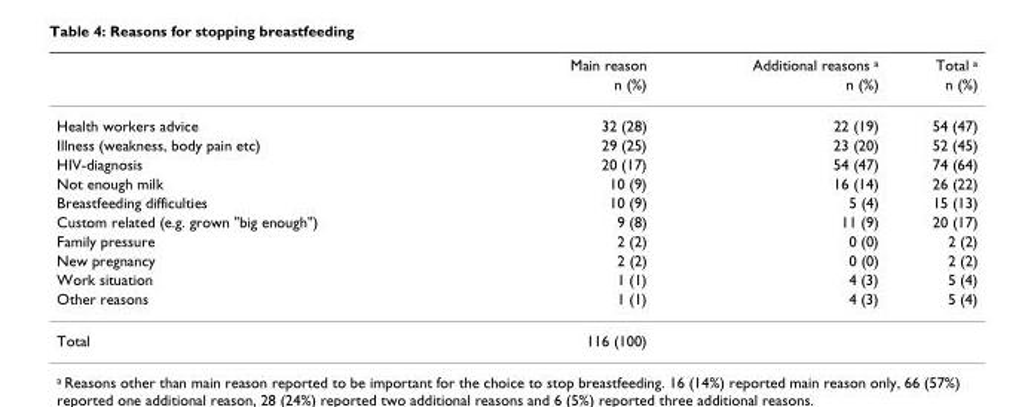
<table><thead><tr><td rowspan="2"></td><td rowspan="2">Main reason n (%)</td><td rowspan="2">Additional reasons <sup>a</sup> n (%)</td><td rowspan="2">Total <sup>a</sup> n (%)</td></tr><tr></tr></thead><tbody><tr><td>Health workers advice</td><td>32 (28)</td><td>22 (19)</td><td>54 (47)</td></tr><tr><td>Illness (weakness, body pain etc)</td><td>29 (25)</td><td>23 (20)</td><td>52 (45)</td></tr><tr><td>HIV-diagnosis</td><td>20 (17)</td><td>54 (47)</td><td>74 (64)</td></tr><tr><td>Not enough milk</td><td>10 (9)</td><td>16 (14)</td><td>26 (22)</td></tr><tr><td>Breastfeeding difficulties</td><td>10 (9)</td><td>5 (4)</td><td>15 (13)</td></tr><tr><td>Custom related (e.g. grown &quot;big enough&quot;)</td><td>9 (8)</td><td>11 (9)</td><td>20 (17)</td></tr><tr><td>Family pressure</td><td>2 (2)</td><td>0 (0)</td><td>2 (2)</td></tr><tr><td>New pregnancy</td><td>2 (2)</td><td>0 (0)</td><td>2 (2)</td></tr><tr><td>Work situation</td><td>1 (1)</td><td>4 (3)</td><td>5 (4)</td></tr><tr><td>Other reasons</td><td>1 (1)</td><td>4 (3)</td><td>5 (4)</td></tr><tr><td>Total</td><td>116 (100)</td><td></td><td></td></tr></tbody></table>